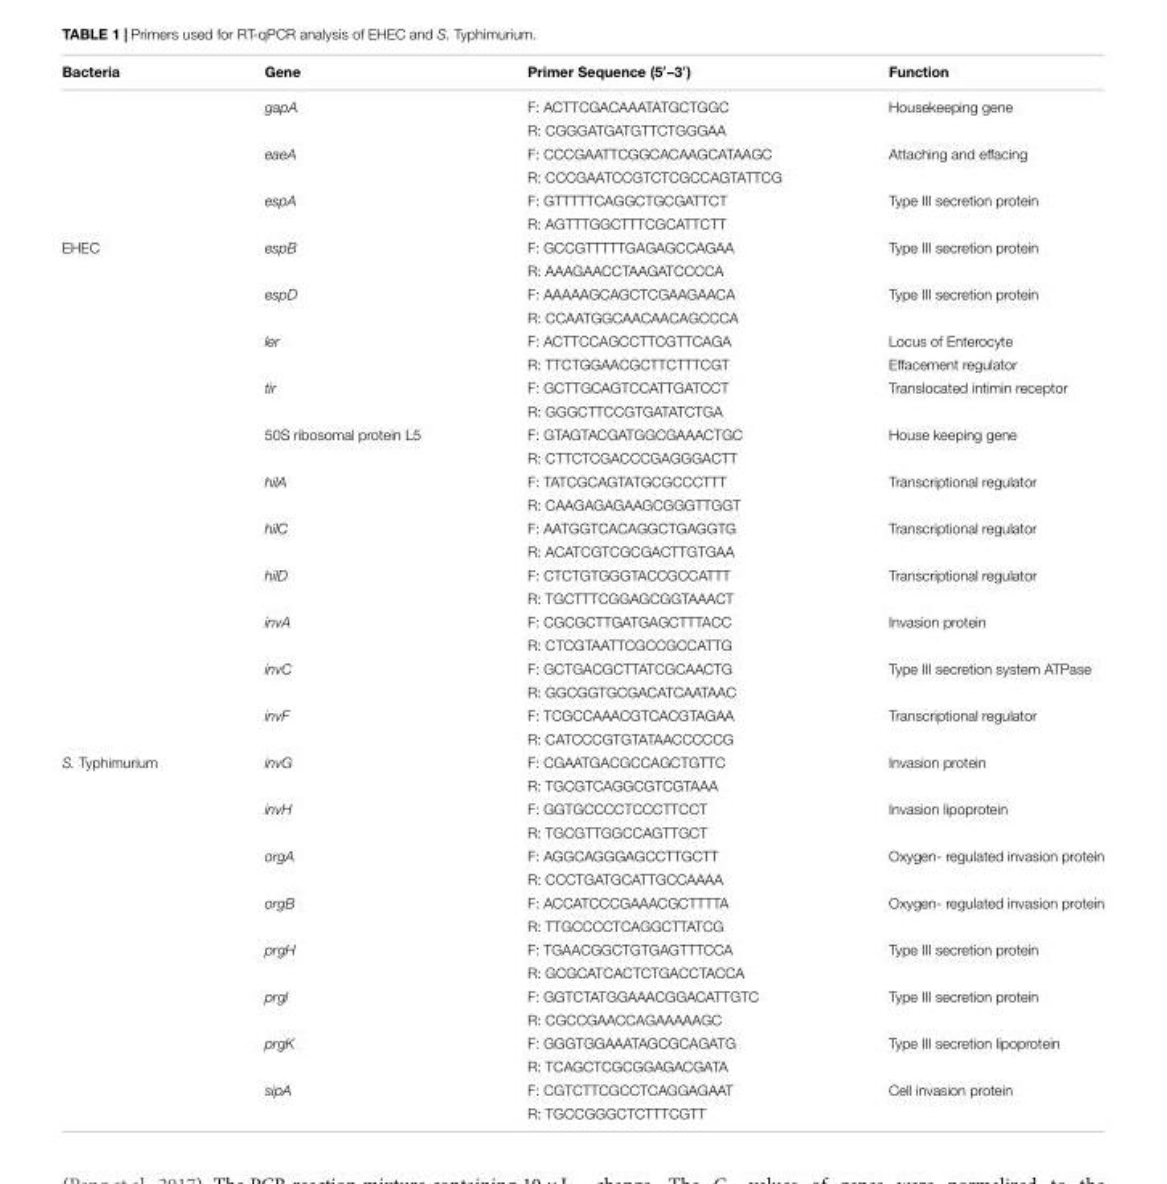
<table><thead><tr><td>Bacteria</td><td>Gene</td><td>Primer Sequence (5′–3′)</td><td>Function</td></tr></thead><tbody><tr><td></td><td>gapA</td><td>F: ACTTCGACAAATATGCTGGC</td><td>Housekeeping gene</td></tr><tr><td></td><td></td><td>R: CGGGATGATGTTCTGGGAA</td><td></td></tr><tr><td></td><td>eaeA</td><td>F: CCCGAATTCGGCACAAGCATAAGC</td><td>Attaching and effacing</td></tr><tr><td></td><td></td><td>R: CCCGAATCCGTCTCGCCAGTATTCG</td><td></td></tr><tr><td></td><td>espA</td><td>F: GTTTTTCAGGCTGCGATTCT</td><td>Type III secretion protein</td></tr><tr><td></td><td></td><td>R: AGTTTGGCTTTCGCATTCTT</td><td></td></tr><tr><td rowspan="22">EHEC</td><td>espB</td><td>F: GCCGTTTTTGAGAGCCAGAA</td><td>Type III secretion protein</td></tr><tr><td></td><td>R: AAAGAACCTAAGATCCCCA</td><td></td></tr><tr><td>espD</td><td>F: AAAAAGCAGCTCGAAGAACA</td><td>Type III secretion protein</td></tr><tr><td></td><td>R: CCAATGGCAACAACAGCCCA</td><td></td></tr><tr><td>ler</td><td>F: ACTTCCAGCCTTCGTTCAGA</td><td>Locus of Enterocyte</td></tr><tr><td></td><td>R: TTCTGGAACGCTTCTTTCGT</td><td>Effacement regulator</td></tr><tr><td>tir</td><td>F: GCTTGCAGTCCATTGATCCT</td><td>Translocated intimin receptor</td></tr><tr><td></td><td>R: GGGCTTCCGTGATATCTGA</td><td></td></tr><tr><td>50S ribosomal protein L5</td><td>F: GTAGTACGATGGCGAAACTGC</td><td>House keeping gene</td></tr><tr><td></td><td>R: CTTCTCGACCCGAGGGACTT</td><td></td></tr><tr><td>hilA</td><td>F: TATCGCAGTATGCGCCCTTT</td><td>Transcriptional regulator</td></tr><tr><td></td><td>R: CAAGAGAGAAGCGGGTTGGT</td><td></td></tr><tr><td>hilC</td><td>F: AATGGTCACAGGCTGAGGTG</td><td>Transcriptional regulator</td></tr><tr><td></td><td>R: ACATCGTCGCGACTTGTGAA</td><td></td></tr><tr><td>hilD</td><td>F: CTCTGTGGGTACCGCCATTT</td><td>Transcriptional regulator</td></tr><tr><td></td><td>R: TGCTTTCGGAGCGGTAAACT</td><td></td></tr><tr><td>invA</td><td>F: CGCGCTTGATGAGCTTTACC</td><td>Invasion protein</td></tr><tr><td></td><td>R: CTCGTAATTCGCCGCCATTG</td><td></td></tr><tr><td>invC</td><td>F: GCTGACGCTTATCGCAACTG</td><td>Type III secretion system ATPase</td></tr><tr><td></td><td>R: GGCGGTGCGACATCAATAAC</td><td></td></tr><tr><td>invF</td><td>F: TCGCCAAACGTCACGTAGAA</td><td>Transcriptional regulator</td></tr><tr><td></td><td>R: CATCCCGTGTATAACCCCCG</td><td></td></tr><tr><td rowspan="16">S. Typhimurium</td><td>invG</td><td>F: CGAATGACGCCAGCTGTTC</td><td>Invasion protein</td></tr><tr><td></td><td>R: TGCGTCAGGCGTCGTAAA</td><td></td></tr><tr><td>invH</td><td>F: GGTGCCCCTCCCTTCCT</td><td>Invasion lipoprotein</td></tr><tr><td></td><td>R: TGCGTTGGCCAGTTGCT</td><td></td></tr><tr><td>orgA</td><td>F: AGGCAGGGAGCCTTGCTT</td><td>Oxygen- regulated invasion protein</td></tr><tr><td></td><td>R: CCCTGATGCATTGCCAAAA</td><td></td></tr><tr><td>orgB</td><td>F: ACCATCCCGAAACGCTTTTA</td><td>Oxygen- regulated invasion protein</td></tr><tr><td></td><td>R: TTGCCCCTCAGGCTTATCG</td><td></td></tr><tr><td>prgH</td><td>F: TGAACGGCTGTGAGTTTCCA</td><td>Type III secretion protein</td></tr><tr><td></td><td>R: GCGCATCACTCTGACCTACCA</td><td></td></tr><tr><td>prgl</td><td>F: GGTCTATGGAAACGGACATTGTC</td><td>Type III secretion protein</td></tr><tr><td></td><td>R: CGCCGAACCAGAAAAAGC</td><td></td></tr><tr><td>prgK</td><td>F: GGGTGGAAATAGCGCAGATG</td><td>Type III secretion lipoprotein</td></tr><tr><td></td><td>R: TCAGCTCGCGGAGACGATA</td><td></td></tr><tr><td>sipA</td><td>F: CGTCTTCGCCTCAGGAGAAT</td><td>Cell invasion protein</td></tr><tr><td></td><td>R: TGCCGGGCTCTTTCGTT</td><td></td></tr></tbody></table>